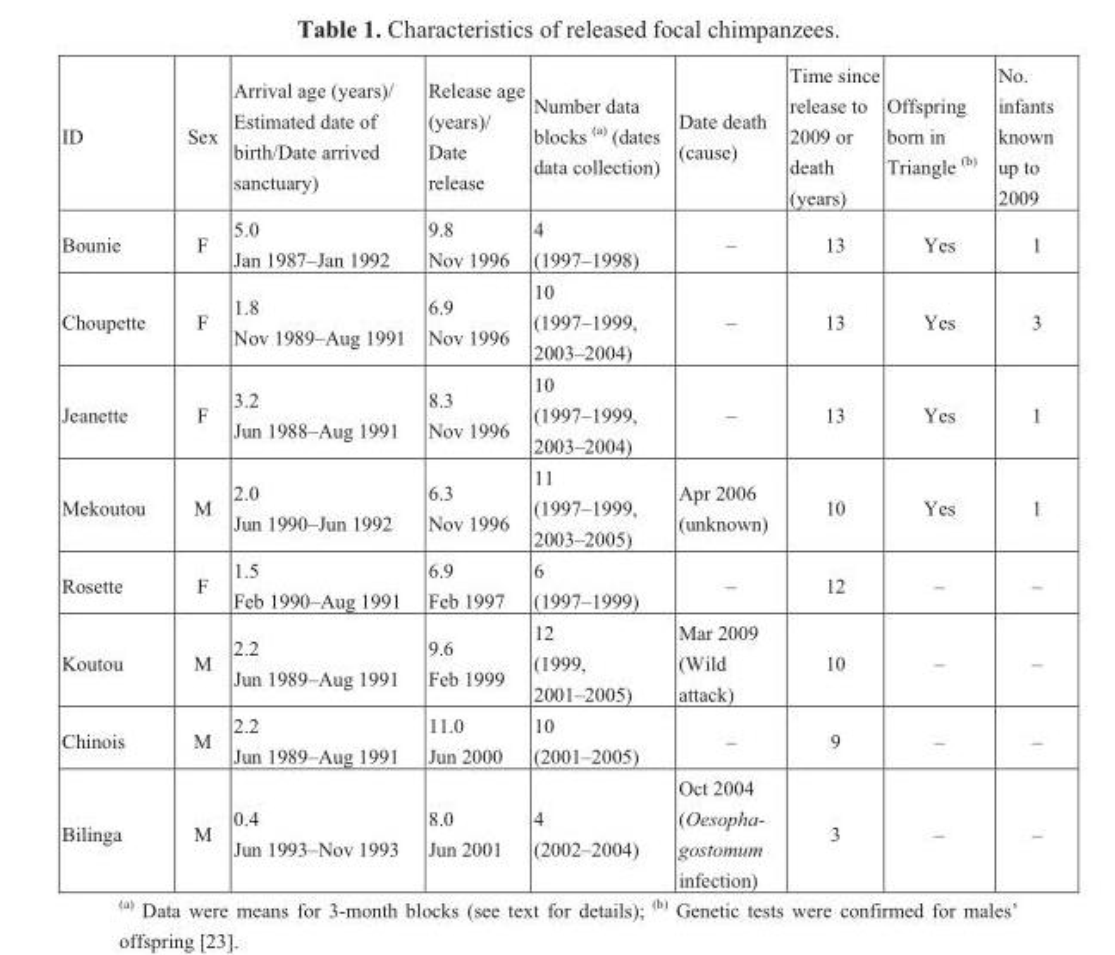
<table><thead><tr><td>ID</td><td>Sex</td><td>Arrival age (years)/ Estimated date of birth/Date arrived sanctuary)</td><td>Release age (years)/ Date release</td><td>Number data blocks <sup>(a)</sup> (dates data collection)</td><td>Date death (cause)</td><td>Time since release to 2009 or death (years)</td><td>Offspring born in Triangle <sup>(b)</sup></td><td>No. infants known up to 2009</td></tr></thead><tbody><tr><td>Bounie</td><td>F</td><td>5.0 Jan 1987–Jan 1992</td><td>9.8 Nov 1996</td><td>4 (1997–1998)</td><td>–</td><td>13</td><td>Yes</td><td>1</td></tr><tr><td>Choupette</td><td>F</td><td>1.8 Nov 1989–Aug 1991</td><td>6.9 Nov 1996</td><td>10 (1997–1999, 2003–2004)</td><td>–</td><td>13</td><td>Yes</td><td>3</td></tr><tr><td>Jeanette</td><td>F</td><td>3.2 Jun 1988–Aug 1991</td><td>8.3 Nov 1996</td><td>10 (1997–1999, 2003–2004)</td><td>–</td><td>13</td><td>Yes</td><td>1</td></tr><tr><td>Mekoutou</td><td>M</td><td>2.0 Jun 1990–Jun 1992</td><td>6.3 Nov 1996</td><td>11 (1997–1999, 2003–2005)</td><td>Apr 2006 (unknown)</td><td>10</td><td>Yes</td><td>1</td></tr><tr><td>Rosette</td><td>F</td><td>1.5 Feb 1990–Aug 1991</td><td>6.9 Feb 1997</td><td>6 (1997–1999)</td><td>–</td><td>12</td><td>–</td><td>–</td></tr><tr><td>Koutou</td><td>M</td><td>2.2 Jun 1989–Aug 1991</td><td>9.6 Feb 1999</td><td>12 (1999, 2001–2005)</td><td>Mar 2009 (Wild attack)</td><td>10</td><td>–</td><td>–</td></tr><tr><td>Chinois</td><td>M</td><td>2.2 Jun 1989–Aug 1991</td><td>11.0 Jun 2000</td><td>10 (2001–2005)</td><td>–</td><td>9</td><td>–</td><td>–</td></tr><tr><td>Bilinga</td><td>M</td><td>0.4 Jun 1993–Nov 1993</td><td>8.0 Jun 2001</td><td>4 (2002–2004)</td><td>Oct 2004 (Oesopha- gostomum infection)</td><td>3</td><td>–</td><td>–</td></tr></tbody></table>